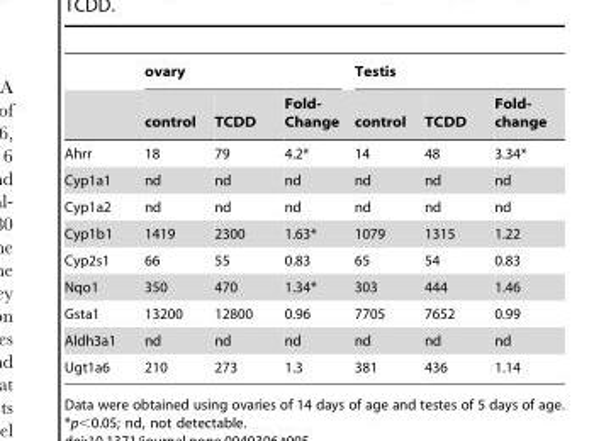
<table><thead><tr><td rowspan="2"></td><td colspan="3">ovary</td><td colspan="3">Testis</td></tr><tr><td>control</td><td>TCDD</td><td>Fold- Change</td><td>control</td><td>TCDD</td><td>Fold- change</td></tr></thead><tbody><tr><td>Ahrr</td><td>18</td><td>79</td><td>4.2*</td><td>14</td><td>48</td><td>3.34*</td></tr><tr><td>Cyp1a1</td><td>nd</td><td>nd</td><td>nd</td><td>nd</td><td>nd</td><td>nd</td></tr><tr><td>Cyp1a2</td><td>nd</td><td>nd</td><td>nd</td><td>nd</td><td>nd</td><td>nd</td></tr><tr><td>Cyp1b1</td><td>1419</td><td>2300</td><td>1.63*</td><td>1079</td><td>1315</td><td>1.22</td></tr><tr><td>Cyp2s1</td><td>66</td><td>55</td><td>0.83</td><td>65</td><td>54</td><td>0.83</td></tr><tr><td>Nqo1</td><td>350</td><td>470</td><td>1.34*</td><td>303</td><td>444</td><td>1.46</td></tr><tr><td>Gsta1</td><td>13200</td><td>12800</td><td>0.96</td><td>7705</td><td>7652</td><td>0.99</td></tr><tr><td>Aldh3a1</td><td>nd</td><td>nd</td><td>nd</td><td>nd</td><td>nd</td><td>nd</td></tr><tr><td>Ugt1a6</td><td>210</td><td>273</td><td>1.3</td><td>381</td><td>436</td><td>1.14</td></tr></tbody></table>